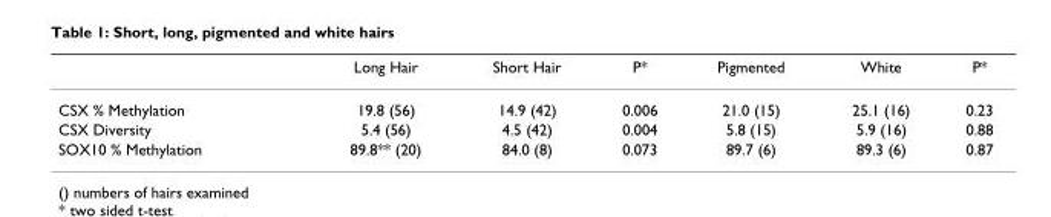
<table><thead><tr><td></td><td>Long Hair</td><td>Short Hair</td><td>P*</td><td>Pigmented</td><td>White</td><td>P*</td></tr></thead><tbody><tr><td>CSX % Methylation</td><td>19.8 (56)</td><td>14.9 (42)</td><td>0.006</td><td>21.0 (15)</td><td>25.1 (16)</td><td>0.23</td></tr><tr><td>CSX Diversity</td><td>5.4 (56)</td><td>4.5 (42)</td><td>0.004</td><td>5.8 (15)</td><td>5.9 (16)</td><td>0.88</td></tr><tr><td>SOX10 % Methylation</td><td>89.8** (20)</td><td>84.0 (8)</td><td>0.073</td><td>89.7 (6)</td><td>89.3 (6)</td><td>0.87</td></tr></tbody></table>